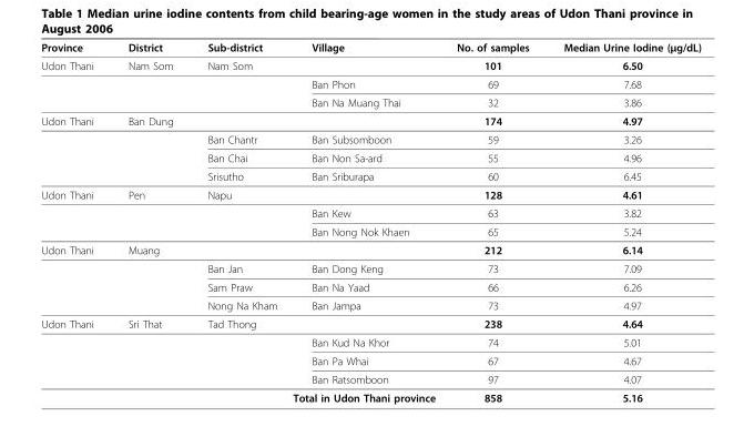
<table><thead><tr><td>Province</td><td>District</td><td>Sub-district</td><td>Village</td><td>No. of samples</td><td>Median Urine Iodine (μg/dL)</td></tr></thead><tbody><tr><td rowspan="3">Udon Thani</td><td>Nam Som</td><td>Nam Som</td><td></td><td>101</td><td>6.50</td></tr><tr><td></td><td></td><td>Ban Phon</td><td>69</td><td>7.68</td></tr><tr><td></td><td></td><td>Ban Na Muang Thai</td><td>32</td><td>3.86</td></tr><tr><td rowspan="4">Udon Thani</td><td>Ban Dung</td><td></td><td></td><td>174</td><td>4.97</td></tr><tr><td></td><td>Ban Chantr</td><td>Ban Subsomboon</td><td>59</td><td>3.26</td></tr><tr><td></td><td>Ban Chai</td><td>Ban Non Sa-ard</td><td>55</td><td>4.96</td></tr><tr><td></td><td>Srisutho</td><td>Ban Sriburapa</td><td>60</td><td>6.45</td></tr><tr><td rowspan="3">Udon Thani</td><td>Pen</td><td>Napu</td><td></td><td>128</td><td>4.61</td></tr><tr><td></td><td></td><td>Ban Kew</td><td>63</td><td>3.82</td></tr><tr><td></td><td></td><td>Ban Nong Nok Khaen</td><td>65</td><td>5.24</td></tr><tr><td rowspan="4">Udon Thani</td><td>Muang</td><td></td><td></td><td>212</td><td>6.14</td></tr><tr><td></td><td>Ban Jan</td><td>Ban Dong Keng</td><td>73</td><td>7.09</td></tr><tr><td></td><td>Sam Praw</td><td>Ban Na Yaad</td><td>66</td><td>6.26</td></tr><tr><td></td><td>Nong Na Kham</td><td>Ban Jampa</td><td>73</td><td>4.97</td></tr><tr><td rowspan="4">Udon Thani</td><td>Sri That</td><td>Tad Thong</td><td></td><td>238</td><td>4.64</td></tr><tr><td></td><td></td><td>Ban Kud Na Khor</td><td>74</td><td>5.01</td></tr><tr><td></td><td></td><td>Ban Pa Whai</td><td>67</td><td>4.67</td></tr><tr><td></td><td></td><td>Ban Ratsomboon</td><td>97</td><td>4.07</td></tr><tr><td colspan="4">Total in Udon Thani province</td><td>858</td><td>5.16</td></tr></tbody></table>